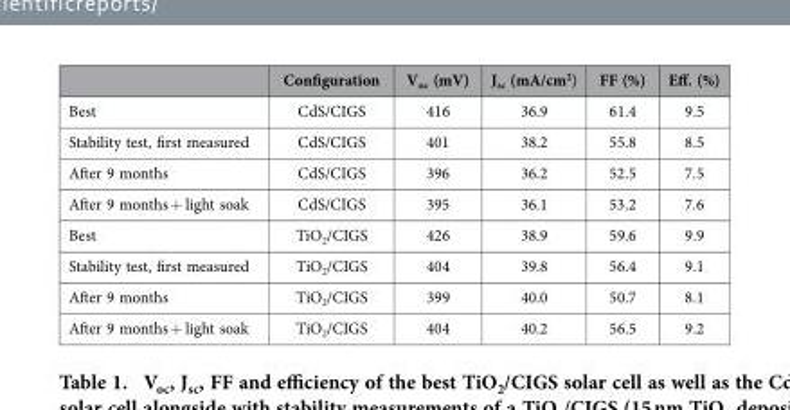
<table><thead><tr><td></td><td>Configuration</td><td>V<sub>oc</sub> (mV)</td><td>J<sub>sc</sub> (mA/cm<sup>2</sup>)</td><td>FF (%)</td><td>Eff. (%)</td></tr></thead><tbody><tr><td>Best</td><td>CdS/CIGS</td><td>416</td><td>36.9</td><td>61.4</td><td>9.5</td></tr><tr><td>Stability test, first measured</td><td>CdS/CIGS</td><td>401</td><td>38.2</td><td>55.8</td><td>8.5</td></tr><tr><td>After 9 months</td><td>CdS/CIGS</td><td>396</td><td>36.2</td><td>52.5</td><td>7.5</td></tr><tr><td>After 9 months + light soak</td><td>CdS/CIGS</td><td>395</td><td>36.1</td><td>53.2</td><td>7.6</td></tr><tr><td>Best</td><td>TiO<sub>2</sub>/CIGS</td><td>426</td><td>38.9</td><td>59.6</td><td>9.9</td></tr><tr><td>Stability test, first measured</td><td>TiO<sub>2</sub>/CIGS</td><td>404</td><td>39.8</td><td>56.4</td><td>9.1</td></tr><tr><td>After 9 months</td><td>TiO<sub>2</sub>/CIGS</td><td>399</td><td>40.0</td><td>50.7</td><td>8.1</td></tr><tr><td>After 9 months + light soak</td><td>TiO<sub>2</sub>/CIGS</td><td>404</td><td>40.2</td><td>56.5</td><td>9.2</td></tr></tbody></table>